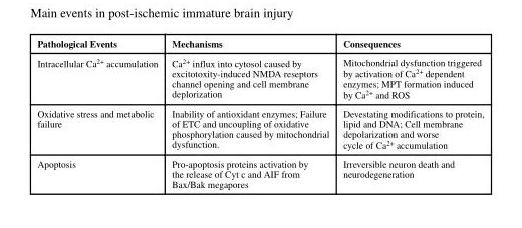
<table><thead><tr><td>Pathological Events</td><td>Mechanisms</td><td>Consequences</td></tr></thead><tbody><tr><td>Intracellular Ca<sup>2+</sup> accumulation</td><td>Ca<sup>2+</sup> influx into cytosol caused by excitotoxity-induced NMDA reseptors channel opening and cell membrane deplorization</td><td>Mitochondrial dysfunction triggered by activation of Ca<sup>2+</sup> dependent enzymes; MPT formation induced by Ca<sup>2+</sup> and ROS</td></tr><tr><td>Oxidative stress and metabolic failure</td><td>Inability of antioxidant enzymes; Failure of ETC and uncoupling of oxidative phosphorylation caused by mitochondrial dysfunction.</td><td>Devestating modifications to protein, lipid and DNA; Cell membrane depolarization and worse cycle of Ca<sup>2+</sup> accumulation</td></tr><tr><td>Apoptosis</td><td>Pro-apoptosis proteins activation by the release of Cyt c and AIF from Bax/Bak megapores</td><td>Irreversible neuron death and neurodegeneration</td></tr></tbody></table>